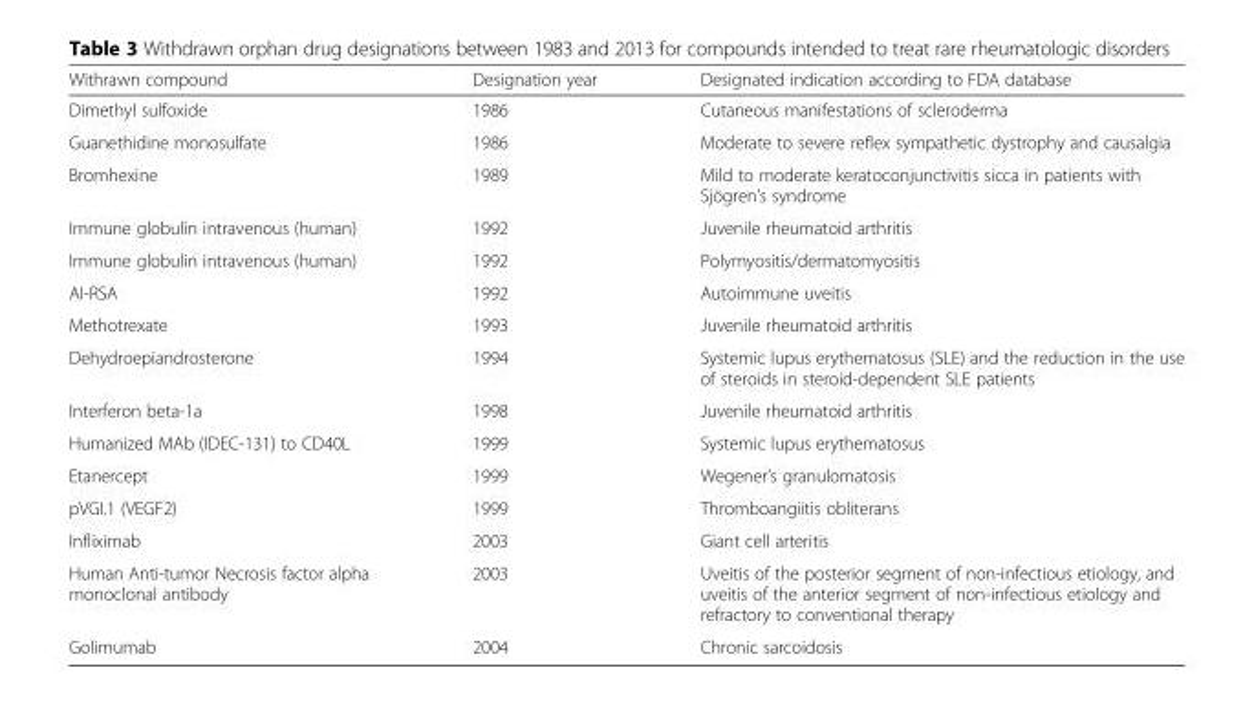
<table><thead><tr><td>Withrawn compound</td><td>Designation year</td><td>Designated indication according to FDA database</td></tr></thead><tbody><tr><td>Dimethyl sulfoxide</td><td>1986</td><td>Cutaneous manifestations of scleroderma</td></tr><tr><td>Guanethidine monosulfate</td><td>1986</td><td>Moderate to severe reflex sympathetic dystrophy and causalgia</td></tr><tr><td>Bromhexine</td><td>1989</td><td>Mild to moderate keratoconjunctivitis sicca in patients with Sjögren’s syndrome</td></tr><tr><td>Immune globulin intravenous (human)</td><td>1992</td><td>Juvenile rheumatoid arthritis</td></tr><tr><td>Immune globulin intravenous (human)</td><td>1992</td><td>Polymyositis/dermatomyositis</td></tr><tr><td>AI-RSA</td><td>1992</td><td>Autoimmune uveitis</td></tr><tr><td>Methotrexate</td><td>1993</td><td>Juvenile rheumatoid arthritis</td></tr><tr><td>Dehydroepiandrosterone</td><td>1994</td><td>Systemic lupus erythematosus (SLE) and the reduction in the use of steroids in steroid-dependent SLE patients</td></tr><tr><td>Interferon beta-1a</td><td>1998</td><td>Juvenile rheumatoid arthritis</td></tr><tr><td>Humanized MAb (IDEC-131) to CD40L</td><td>1999</td><td>Systemic lupus erythematosus</td></tr><tr><td>Etanercept</td><td>1999</td><td>Wegener’s granulomatosis</td></tr><tr><td>pVGI.1 (VEGF2)</td><td>1999</td><td>Thromboangiitis obliterans</td></tr><tr><td>Infliximab</td><td>2003</td><td>Giant cell arteritis</td></tr><tr><td>Human Anti-tumor Necrosis factor alpha monoclonal antibody</td><td>2003</td><td>Uveitis of the posterior segment of non-infectious etiology, and uveitis of the anterior segment of non-infectious etiology and refractory to conventional therapy</td></tr><tr><td>Golimumab</td><td>2004</td><td>Chronic sarcoidosis</td></tr></tbody></table>